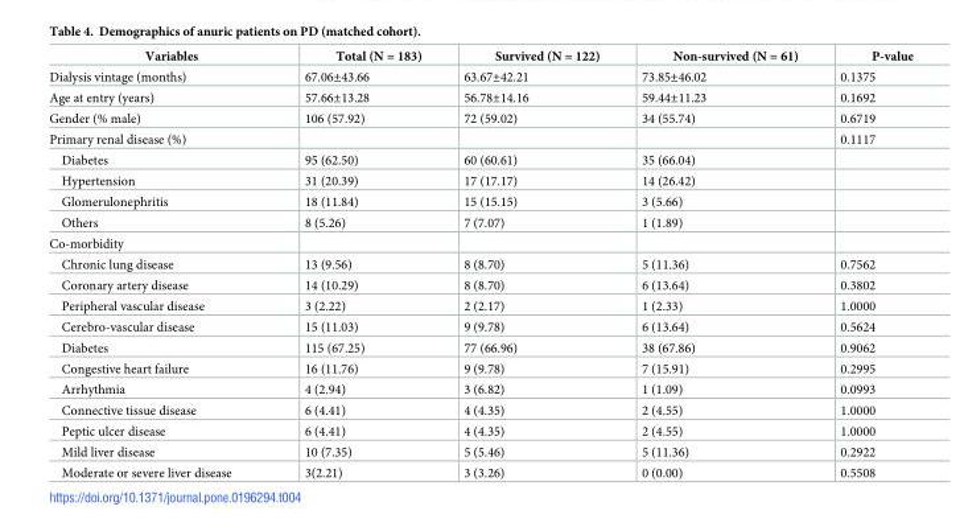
<table><thead><tr><td>Variables</td><td>Total (N = 183)</td><td>Survived (N = 122)</td><td>Non-survived (N = 61)</td><td>P-value</td></tr></thead><tbody><tr><td>Dialysis vintage (months)</td><td>67.06±43.66</td><td>63.67±42.21</td><td>73.85±46.02</td><td>0.1375</td></tr><tr><td>Age at entry (years)</td><td>57.66±13.28</td><td>56.78±14.16</td><td>59.44±11.23</td><td>0.1692</td></tr><tr><td>Gender (% male)</td><td>106 (57.92)</td><td>72 (59.02)</td><td>34 (55.74)</td><td>0.6719</td></tr><tr><td>Primary renal disease (%)</td><td></td><td></td><td></td><td>0.1117</td></tr><tr><td>Diabetes</td><td>95 (62.50)</td><td>60 (60.61)</td><td>35 (66.04)</td><td></td></tr><tr><td>Hypertension</td><td>31 (20.39)</td><td>17 (17.17)</td><td>14 (26.42)</td><td></td></tr><tr><td>Glomerulonephritis</td><td>18 (11.84)</td><td>15 (15.15)</td><td>3 (5.66)</td><td></td></tr><tr><td>Others</td><td>8 (5.26)</td><td>7 (7.07)</td><td>1 (1.89)</td><td></td></tr><tr><td colspan="5">Co-morbidity</td></tr><tr><td>Chronic lung disease</td><td>13 (9.56)</td><td>8 (8.70)</td><td>5 (11.36)</td><td>0.7562</td></tr><tr><td>Coronary artery disease</td><td>14 (10.29)</td><td>8 (8.70)</td><td>6 (13.64)</td><td>0.3802</td></tr><tr><td>Peripheral vascular disease</td><td>3 (2.22)</td><td>2 (2.17)</td><td>1 (2.33)</td><td>1.0000</td></tr><tr><td>Cerebro-vascular disease</td><td>15 (11.03)</td><td>9 (9.78)</td><td>6 (13.64)</td><td>0.5624</td></tr><tr><td>Diabetes</td><td>115 (67.25)</td><td>77 (66.96)</td><td>38 (67.86)</td><td>0.9062</td></tr><tr><td>Congestive heart failure</td><td>16 (11.76)</td><td>9 (9.78)</td><td>7 (15.91)</td><td>0.2995</td></tr><tr><td>Arrhythmia</td><td>4 (2.94)</td><td>3 (6.82)</td><td>1 (1.09)</td><td>0.0993</td></tr><tr><td>Connective tissue disease</td><td>6 (4.41)</td><td>4 (4.35)</td><td>2 (4.55)</td><td>1.0000</td></tr><tr><td>Peptic ulcer disease</td><td>6 (4.41)</td><td>4 (4.35)</td><td>2 (4.55)</td><td>1.0000</td></tr><tr><td>Mild liver disease</td><td>10 (7.35)</td><td>5 (5.46)</td><td>5 (11.36)</td><td>0.2922</td></tr><tr><td>Moderate or severe liver disease</td><td>3(2.21)</td><td>3 (3.26)</td><td>0 (0.00)</td><td>0.5508</td></tr></tbody></table>